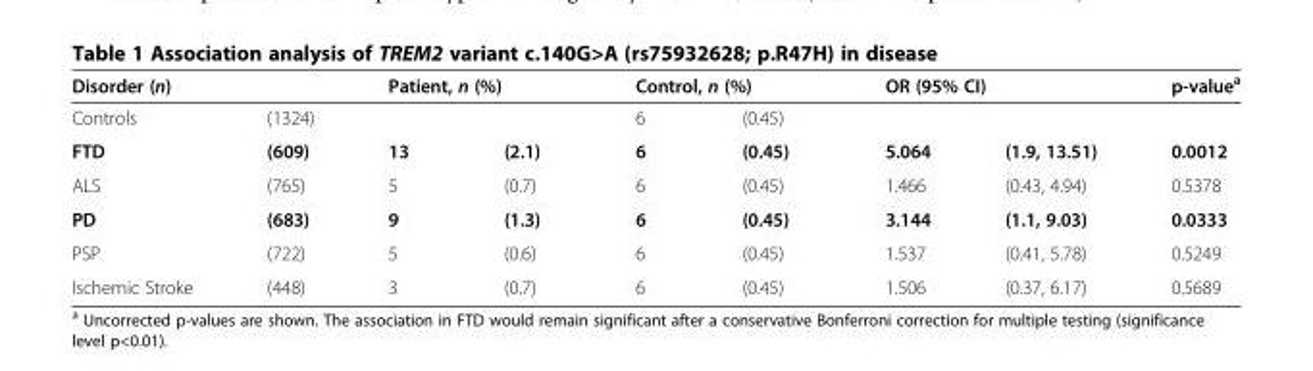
<table><thead><tr><td colspan="2">Disorder (n)</td><td colspan="2">Patient, n (%)</td><td colspan="2">Control, n (%)</td><td colspan="2">OR (95% CI)</td><td rowspan="2">p-value<sup>a</sup></td></tr><tr><td>Controls</td><td>(1324)</td><td></td><td></td><td>6</td><td>(0.45)</td><td></td><td></td></tr></thead><tbody><tr><td>FTD</td><td>(609)</td><td>13</td><td>(2.1)</td><td>6</td><td>(0.45)</td><td>5.064</td><td>(1.9, 13.51)</td><td>0.0012</td></tr><tr><td>ALS</td><td>(765)</td><td>5</td><td>(0.7)</td><td>6</td><td>(0.45)</td><td>1.466</td><td>(0.43, 4.94)</td><td>0.5378</td></tr><tr><td>PD</td><td>(683)</td><td>9</td><td>(1.3)</td><td>6</td><td>(0.45)</td><td>3.144</td><td>(1.1, 9.03)</td><td>0.0333</td></tr><tr><td>PSP</td><td>(722)</td><td>5</td><td>(0.6)</td><td>6</td><td>(0.45)</td><td>1.537</td><td>(0.41, 5.78)</td><td>0.5249</td></tr><tr><td>Ischemic Stroke</td><td>(448)</td><td>3</td><td>(0.7)</td><td>6</td><td>(0.45)</td><td>1.506</td><td>(0.37, 6.17)</td><td>0.5689</td></tr></tbody></table>